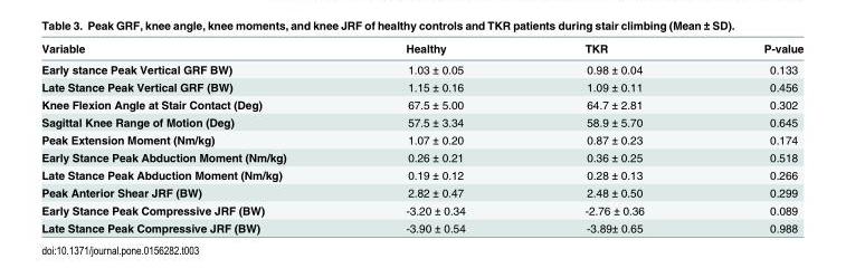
<table><thead><tr><td>Variable</td><td>Healthy</td><td>TKR</td><td>P-value</td></tr></thead><tbody><tr><td>Early stance Peak Vertical GRF BW)</td><td>1.03 ± 0.05</td><td>0.98 ± 0.04</td><td>0.133</td></tr><tr><td>Late Stance Peak Vertical GRF (BW)</td><td>1.15 ± 0.16</td><td>1.09 ± 0.11</td><td>0.456</td></tr><tr><td>Knee Flexion Angle at Stair Contact (Deg)</td><td>67.5 ± 5.00</td><td>64.7 ± 2.81</td><td>0.302</td></tr><tr><td>Sagittal Knee Range of Motion (Deg)</td><td>57.5 ± 3.34</td><td>58.9 ± 5.70</td><td>0.645</td></tr><tr><td>Peak Extension Moment (Nm/kg)</td><td>1.07 ± 0.20</td><td>0.87 ± 0.23</td><td>0.174</td></tr><tr><td>Early Stance Peak Abduction Moment (Nm/kg)</td><td>0.26 ± 0.21</td><td>0.36 ± 0.25</td><td>0.518</td></tr><tr><td>Late Stance Peak Abduction Moment (Nm/kg)</td><td>0.19 ± 0.12</td><td>0.28 ± 0.13</td><td>0.266</td></tr><tr><td>Peak Anterior Shear JRF (BW)</td><td>2.82 ± 0.47</td><td>2.48 ± 0.50</td><td>0.299</td></tr><tr><td>Early Stance Peak Compressive JRF (BW)</td><td>-3.20 ± 0.34</td><td>-2.76 ± 0.36</td><td>0.089</td></tr><tr><td>Late Stance Peak Compressive JRF (BW)</td><td>-3.90 ± 0.54</td><td>-3.89± 0.65</td><td>0.988</td></tr></tbody></table>